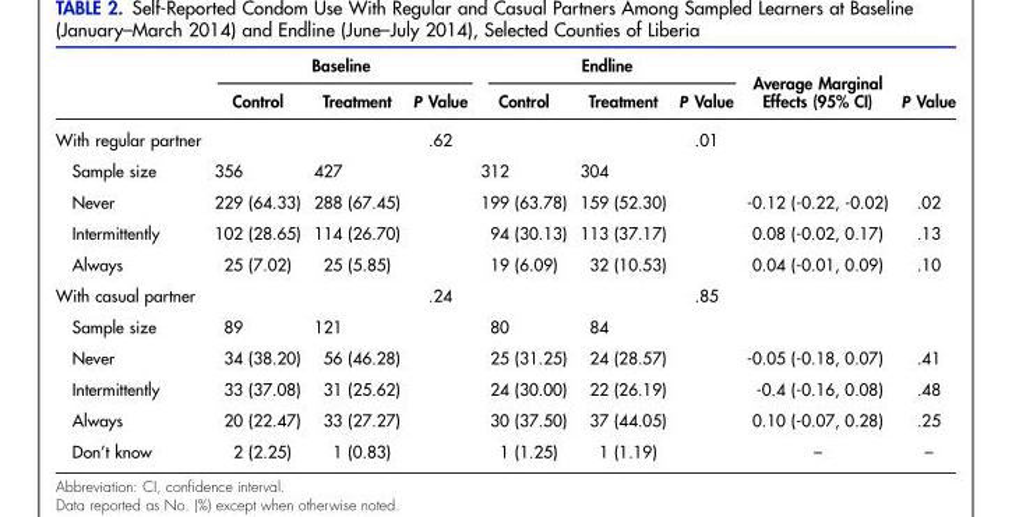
<table><thead><tr><td rowspan="2"></td><td colspan="3">Baseline</td><td colspan="3">Endline</td><td rowspan="2">Average Marginal Effects (95% CI)</td><td rowspan="2">P Value</td></tr><tr><td>Control</td><td>Treatment</td><td>P Value</td><td>Control</td><td>Treatment</td><td>P Value</td></tr></thead><tbody><tr><td>With regular partner</td><td></td><td></td><td>.62</td><td></td><td></td><td>.01</td><td></td><td></td></tr><tr><td>Sample size</td><td>356</td><td>427</td><td></td><td>312</td><td>304</td><td></td><td></td><td></td></tr><tr><td>Never</td><td>229 (64.33)</td><td>288 (67.45)</td><td></td><td>199 (63.78)</td><td>159 (52.30)</td><td></td><td>-0.12 (-0.22, -0.02)</td><td>.02</td></tr><tr><td>Intermittently</td><td>102 (28.65)</td><td>114 (26.70)</td><td></td><td>94 (30.13)</td><td>113 (37.17)</td><td></td><td>0.08 (-0.02, 0.17)</td><td>.13</td></tr><tr><td>Always</td><td>25 (7.02)</td><td>25 (5.85)</td><td></td><td>19 (6.09)</td><td>32 (10.53)</td><td></td><td>0.04 (-0.01, 0.09)</td><td>.10</td></tr><tr><td>With casual partner</td><td></td><td></td><td>.24</td><td></td><td></td><td>.85</td><td></td><td></td></tr><tr><td>Sample size</td><td>89</td><td>121</td><td></td><td>80</td><td>84</td><td></td><td></td><td></td></tr><tr><td>Never</td><td>34 (38.20)</td><td>56 (46.28)</td><td></td><td>25 (31.25)</td><td>24 (28.57)</td><td></td><td>-0.05 (-0.18, 0.07)</td><td>.41</td></tr><tr><td>Intermittently</td><td>33 (37.08)</td><td>31 (25.62)</td><td></td><td>24 (30.00)</td><td>22 (26.19)</td><td></td><td>-0.4 (-0.16, 0.08)</td><td>.48</td></tr><tr><td>Always</td><td>20 (22.47)</td><td>33 (27.27)</td><td></td><td>30 (37.50)</td><td>37 (44.05)</td><td></td><td>0.10 (-0.07, 0.28)</td><td>.25</td></tr><tr><td>Don’t know</td><td>2 (2.25)</td><td>1 (0.83)</td><td></td><td>1 (1.25)</td><td>1 (1.19)</td><td></td><td>–</td><td>–</td></tr></tbody></table>